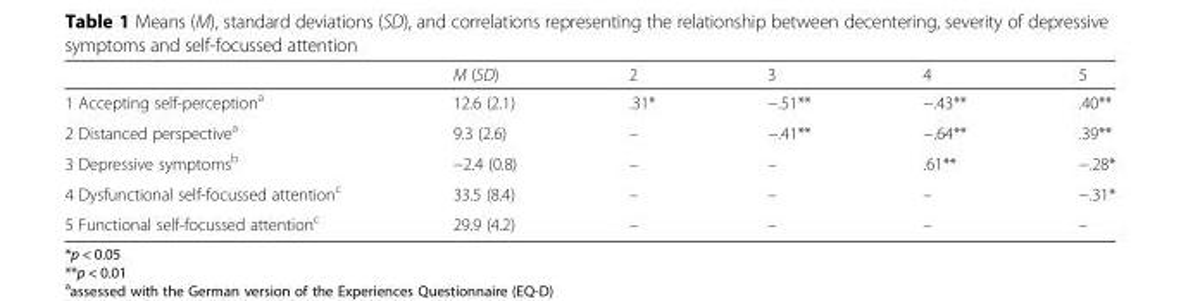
<table><thead><tr><td></td><td>M (SD)</td><td>2</td><td>3</td><td>4</td><td>5</td></tr></thead><tbody><tr><td>1 Accepting self-perception<sup>a</sup></td><td>12.6 (2.1)</td><td>.31*</td><td>−.51**</td><td>−.43**</td><td>.40**</td></tr><tr><td>2 Distanced perspective<sup>a</sup></td><td>9.3 (2.6)</td><td>–</td><td>−.41**</td><td>−.64**</td><td>.39**</td></tr><tr><td>3 Depressive symptoms<sup>b</sup></td><td>−2.4 (0.8)</td><td>–</td><td>–</td><td>.61**</td><td>−.28*</td></tr><tr><td>4 Dysfunctional self-focussed attention<sup>c</sup></td><td>33.5 (8.4)</td><td>–</td><td>–</td><td>–</td><td>−.31*</td></tr><tr><td>5 Functional self-focussed attention<sup>c</sup></td><td>29.9 (4.2)</td><td>–</td><td>–</td><td>–</td><td>–</td></tr></tbody></table>